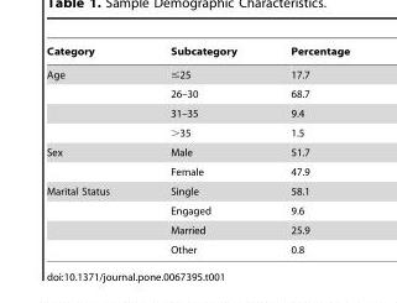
<table><thead><tr><td>Category</td><td>Subcategory</td><td>Percentage</td></tr></thead><tbody><tr><td rowspan="4">Age</td><td>≤25</td><td>17.7</td></tr><tr><td>26–30</td><td>68.7</td></tr><tr><td>31–35</td><td>9.4</td></tr><tr><td>&gt;35</td><td>1.5</td></tr><tr><td rowspan="2">Sex</td><td>Male</td><td>51.7</td></tr><tr><td>Female</td><td>47.9</td></tr><tr><td rowspan="4">Marital Status</td><td>Single</td><td>58.1</td></tr><tr><td>Engaged</td><td>9.6</td></tr><tr><td>Married</td><td>25.9</td></tr><tr><td>Other</td><td>0.8</td></tr></tbody></table>